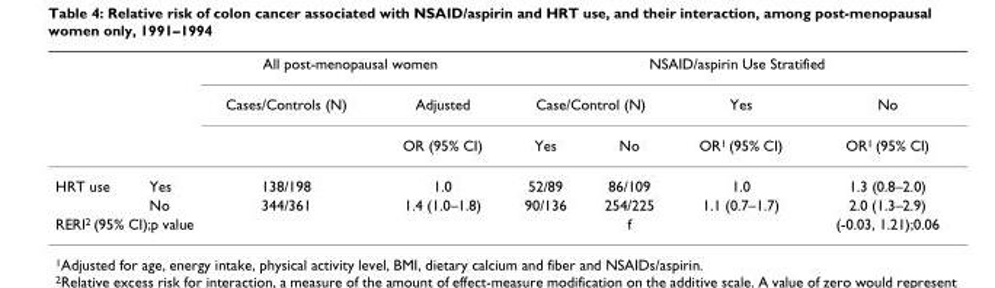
<table><thead><tr><td rowspan="3"></td><td rowspan="3"></td><td colspan="2">All post-menopausal women</td><td colspan="4">NSAID/aspirin Use Stratified</td></tr><tr><td rowspan="2">Cases/Controls (N)</td><td rowspan="2">Adjusted OR (95% CI)</td><td colspan="2">Case/Control (N)</td><td rowspan="2">Yes OR1 (95% CI)</td><td rowspan="2">No OR1 (95% CI)</td></tr><tr><td>Yes</td><td>No</td></tr></thead><tbody><tr><td rowspan="2">HRT use</td><td>Yes</td><td>138/198</td><td>1.0</td><td>52/89</td><td>86/109</td><td>1.0</td><td>1.3 (0.8–2.0)</td></tr><tr><td>No</td><td>344/361</td><td>1.4 (1.0–1.8)</td><td>90/136</td><td>254/225</td><td>1.1 (0.7–1.7)</td><td>2.0 (1.3–2.9)</td></tr><tr><td colspan="3">RERI<sup>2</sup> (95% CI);p value</td><td></td><td></td><td>f</td><td></td><td>(-0.03, 1.21);0.06</td></tr></tbody></table>